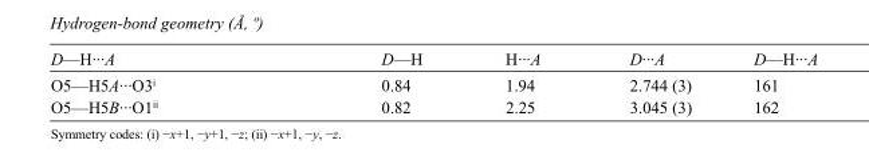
<table><tbody><tr><td>D—H···A</td><td>D—H</td><td>H···A</td><td>D···A</td><td>D—H···A</td></tr><tr><td>O5—H5A···O3<sup>i</sup></td><td>0.84</td><td>1.94</td><td>2.744 (3)</td><td>161</td></tr><tr><td>O5—H5B···O1<sup>ii</sup></td><td>0.82</td><td>2.25</td><td>3.045 (3)</td><td>162</td></tr></tbody></table>